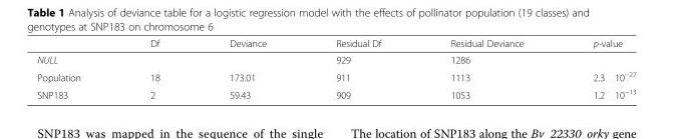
<table><thead><tr><td></td><td>Df</td><td>Deviance</td><td>Residual Df</td><td>Residual Deviance</td><td>p-value</td></tr></thead><tbody><tr><td>NULL</td><td></td><td></td><td>929</td><td>1286</td><td></td></tr><tr><td>Population</td><td>18</td><td>173.01</td><td>911</td><td>1113</td><td>2.3 10−27</td></tr><tr><td>SNP183</td><td>2</td><td>59.43</td><td>909</td><td>1053</td><td>1.2 10−13</td></tr></tbody></table>